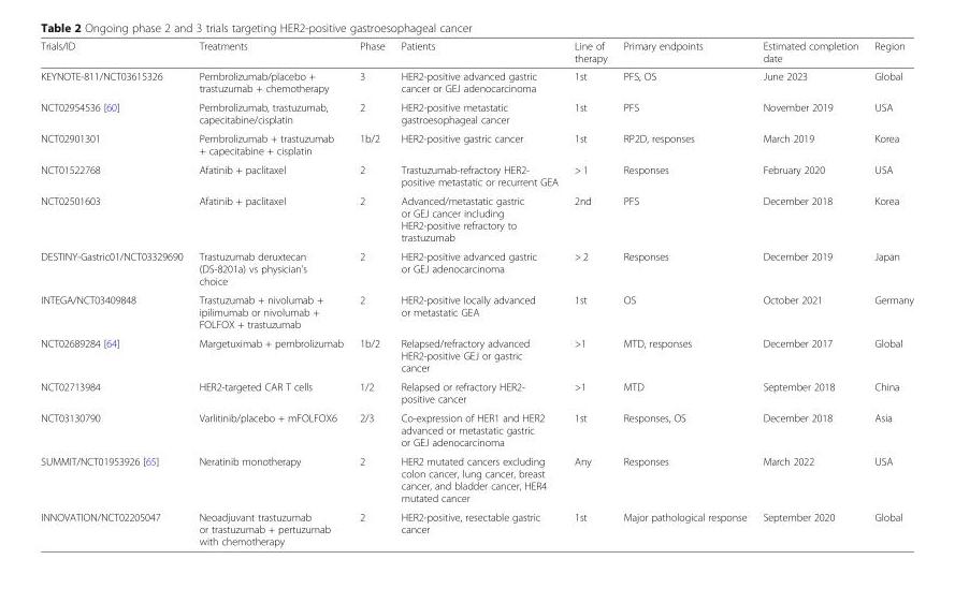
<table><thead><tr><td>Trials/ID</td><td>Treatments</td><td>Phase</td><td>Patients</td><td>Line of therapy</td><td>Primary endpoints</td><td>Estimated completion date</td><td>Region</td></tr></thead><tbody><tr><td>KEYNOTE-811/NCT03615326</td><td>Pembrolizumab/placebo + trastuzumab + chemotherapy</td><td>3</td><td>HER2-positive advanced gastric cancer or GEJ adenocarcinoma</td><td>1st</td><td>PFS, OS</td><td>June 2023</td><td>Global</td></tr><tr><td>NCT02954536 [60]</td><td>Pembrolizumab, trastuzumab, capecitabine/cisplatin</td><td>2</td><td>HER2-positive metastatic gastroesophageal cancer</td><td>1st</td><td>PFS</td><td>November 2019</td><td>USA</td></tr><tr><td>NCT02901301</td><td>Pembrolizumab + trastuzumab + capecitabine + cisplatin</td><td>1b/2</td><td>HER2-positive gastric cancer</td><td>1st</td><td>RP2D, responses</td><td>March 2019</td><td>Korea</td></tr><tr><td>NCT01522768</td><td>Afatinib + paclitaxel</td><td>2</td><td>Trastuzumab-refractory HER2- positive metastatic or recurrent GEA</td><td>&gt; 1</td><td>Responses</td><td>February 2020</td><td>USA</td></tr><tr><td>NCT02501603</td><td>Afatinib + paclitaxel</td><td>2</td><td>Advanced/metastatic gastric or GEJ cancer including HER2-positive refractory to trastuzumab</td><td>2nd</td><td>PFS</td><td>December 2018</td><td>Korea</td></tr><tr><td>DESTINY-Gastric01/NCT03329690</td><td>Trastuzumab deruxtecan (DS-8201a) vs physician’s choice</td><td>2</td><td>HER2-positive advanced gastric or GEJ adenocarcinoma</td><td>&gt; 2</td><td>Responses</td><td>December 2019</td><td>Japan</td></tr><tr><td>INTEGA/NCT03409848</td><td>Trastuzumab + nivolumab + ipilimumab or nivolumab + FOLFOX + trastuzumab</td><td>2</td><td>HER2-positive locally advanced or metastatic GEA</td><td>1st</td><td>OS</td><td>October 2021</td><td>Germany</td></tr><tr><td>NCT02689284 [64]</td><td>Margetuximab + pembrolizumab</td><td>1b/2</td><td>Relapsed/refractory advanced HER2-positive GEJ or gastric cancer</td><td>&gt;1</td><td>MTD, responses</td><td>December 2017</td><td>Global</td></tr><tr><td>NCT02713984</td><td>HER2-targeted CAR T cells</td><td>1/2</td><td>Relapsed or refractory HER2- positive cancer</td><td>&gt;1</td><td>MTD</td><td>September 2018</td><td>China</td></tr><tr><td>NCT03130790</td><td>Varlitinib/placebo + mFOLFOX6</td><td>2/3</td><td>Co-expression of HER1 and HER2 advanced or metastatic gastric or GEJ adenocarcinoma</td><td>1st</td><td>Responses, OS</td><td>December 2018</td><td>Asia</td></tr><tr><td>SUMMIT/NCT01953926 [65]</td><td>Neratinib monotherapy</td><td>2</td><td>HER2 mutated cancers excluding colon cancer, lung cancer, breast cancer, and bladder cancer, HER4 mutated cancer</td><td>Any</td><td>Responses</td><td>March 2022</td><td>USA</td></tr><tr><td>INNOVATION/NCT02205047</td><td>Neoadjuvant trastuzumab or trastuzumab + pertuzumab with chemotherapy</td><td>2</td><td>HER2-positive, resectable gastric cancer</td><td>1st</td><td>Major pathological response</td><td>September 2020</td><td>Global</td></tr></tbody></table>